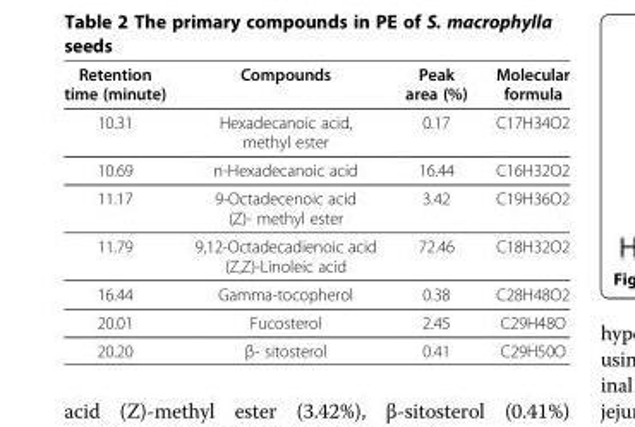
<table><thead><tr><td>Retention time (minute)</td><td>Compounds</td><td>Peak area (%)</td><td>Molecular formula</td></tr></thead><tbody><tr><td>10.31</td><td>Hexadecanoic acid, methyl ester</td><td>0.17</td><td>C17H34O2</td></tr><tr><td>10.69</td><td>n-Hexadecanoic acid</td><td>16.44</td><td>C16H32O2</td></tr><tr><td>11.17</td><td>9-Octadecenoic acid (Z)- methyl ester</td><td>3.42</td><td>C19H36O2</td></tr><tr><td>11.79</td><td>9,12-Octadecadienoic acid (Z,Z)-Linoleic acid</td><td>72.46</td><td>C18H32O2</td></tr><tr><td>16.44</td><td>Gamma-tocopherol</td><td>0.38</td><td>C28H48O2</td></tr><tr><td>20.01</td><td>Fucosterol</td><td>2.45</td><td>C29H48O</td></tr><tr><td>20.20</td><td>β- sitosterol</td><td>0.41</td><td>C29H50O</td></tr></tbody></table>